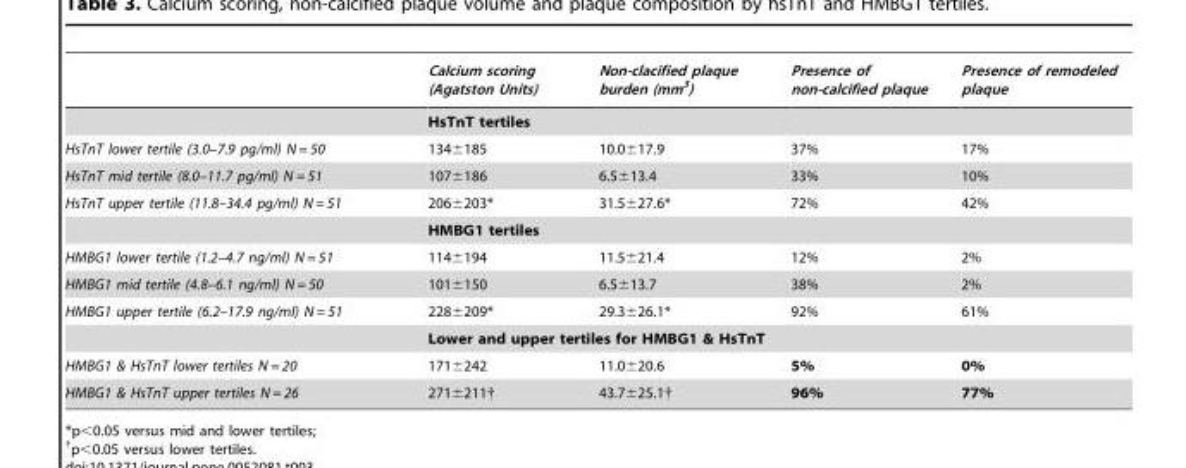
<table><thead><tr><td></td><td>Calcium scoring (Agatston Units)</td><td>Non-clacified plaque burden (mm<sup>3</sup>)</td><td>Presence of non-calcified plaque</td><td>Presence of remodeled plaque</td></tr></thead><tbody><tr><td></td><td colspan="4">HsTnT tertiles</td></tr><tr><td>HsTnT lower tertile (3.0–7.9 pg/ml) N = 50</td><td>134±185</td><td>10.0±17.9</td><td>37%</td><td>17%</td></tr><tr><td>HsTnT mid tertile (8.0–11.7 pg/ml) N = 51</td><td>107±186</td><td>6.5±13.4</td><td>33%</td><td>10%</td></tr><tr><td rowspan="2">HsTnT upper tertile (11.8–34.4 pg/ml) N = 51</td><td>206±203*</td><td>31.5±27.6*</td><td>72%</td><td>42%</td></tr><tr><td colspan="4">HMBG1 tertiles</td></tr><tr><td>HMBG1 lower tertile (1.2–4.7 ng/ml) N = 51</td><td>114±194</td><td>11.5±21.4</td><td>12%</td><td>2%</td></tr><tr><td>HMBG1 mid tertile (4.8–6.1 ng/ml) N = 50</td><td>101±150</td><td>6.5±13.7</td><td>38%</td><td>2%</td></tr><tr><td rowspan="2">HMBG1 upper tertile (6.2–17.9 ng/ml) N = 51</td><td>228±209*</td><td>29.3±26.1*</td><td>92%</td><td>61%</td></tr><tr><td colspan="4">Lower and upper tertiles for HMBG1 &amp; HsTnT</td></tr><tr><td>HMBG1 &amp; HsTnT lower tertiles N = 20</td><td>171±242</td><td>11.0±20.6</td><td>5%</td><td>0%</td></tr><tr><td>HMBG1 &amp; HsTnT upper tertiles N = 26</td><td>271±211†</td><td>43.7±25.1†</td><td>96%</td><td>77%</td></tr></tbody></table>